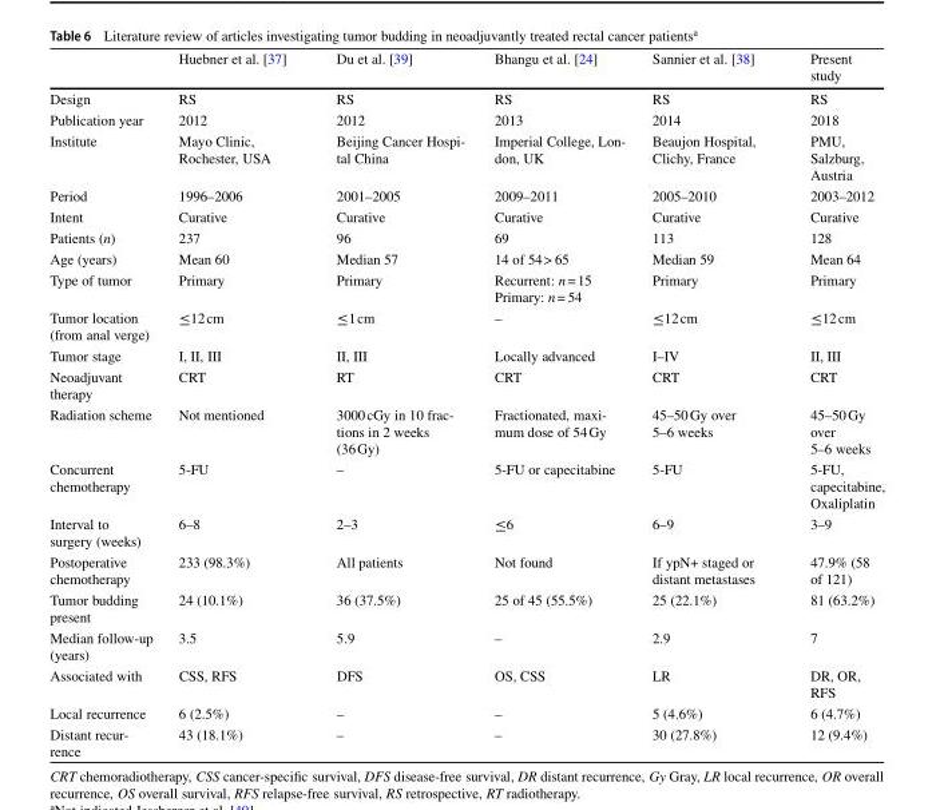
<table><thead><tr><td></td><td>Huebner et al. [37]</td><td>Du et al. [39]</td><td>Bhangu et al. [24]</td><td>Sannier et al. [38]</td><td>Present study</td></tr></thead><tbody><tr><td>Design</td><td>RS</td><td>RS</td><td>RS</td><td>RS</td><td>RS</td></tr><tr><td>Publication year</td><td>2012</td><td>2012</td><td>2013</td><td>2014</td><td>2018</td></tr><tr><td>Institute</td><td>Mayo Clinic, Rochester, USA</td><td>Beijing Cancer Hospi- tal China</td><td>Imperial College, Lon- don, UK</td><td>Beaujon Hospital, Clichy, France</td><td>PMU, Salzburg, Austria</td></tr><tr><td>Period</td><td>1996–2006</td><td>2001–2005</td><td>2009–2011</td><td>2005–2010</td><td>2003–2012</td></tr><tr><td>Intent</td><td>Curative</td><td>Curative</td><td>Curative</td><td>Curative</td><td>Curative</td></tr><tr><td>Patients (n)</td><td>237</td><td>96</td><td>69</td><td>113</td><td>128</td></tr><tr><td>Age (years)</td><td>Mean 60</td><td>Median 57</td><td>14 of 54&gt; 65</td><td>Median 59</td><td>Mean 64</td></tr><tr><td>Type of tumor</td><td>Primary</td><td>Primary</td><td>Recurrent: n=15 Primary: n= 54</td><td>Primary</td><td>Primary</td></tr><tr><td>Tumor location (from anal verge)</td><td>≤12cm</td><td>≤1cm</td><td>–</td><td>≤12cm</td><td>≤12cm</td></tr><tr><td>Tumor stage</td><td>I, II, III</td><td>II, III</td><td>Locally advanced</td><td>I–IV</td><td>II, III</td></tr><tr><td>Neoadjuvant therapy</td><td>CRT</td><td>RT</td><td>CRT</td><td>CRT</td><td>CRT</td></tr><tr><td>Radiation scheme</td><td>Not mentioned</td><td>3000cGy in 10 frac- tions in 2 weeks (36Gy)</td><td>Fractionated, maxi- mum dose of 54Gy</td><td>45–50Gy over 5–6 weeks</td><td>45–50Gy over 5–6 weeks</td></tr><tr><td>Concurrent chemotherapy</td><td>5-FU</td><td>–</td><td>5-FU or capecitabine</td><td>5-FU</td><td>5-FU, capecitabine, Oxaliplatin</td></tr><tr><td>Interval to surgery (weeks)</td><td>6–8</td><td>2–3</td><td>≤6</td><td>6–9</td><td>3–9</td></tr><tr><td>Postoperative chemotherapy</td><td>233 (98.3%)</td><td>All patients</td><td>Not found</td><td>If ypN+ staged or distant metastases</td><td>47.9% (58 of 121)</td></tr><tr><td>Tumor budding present</td><td>24 (10.1%)</td><td>36 (37.5%)</td><td>25 of 45 (55.5%)</td><td>25 (22.1%)</td><td>81 (63.2%)</td></tr><tr><td>Median follow-up (years)</td><td>3.5</td><td>5.9</td><td>–</td><td>2.9</td><td>7</td></tr><tr><td>Associated with</td><td>CSS, RFS</td><td>DFS</td><td>OS, CSS</td><td>LR</td><td>DR, OR, RFS</td></tr><tr><td>Local recurrence</td><td>6 (2.5%)</td><td>–</td><td>–</td><td>5 (4.6%)</td><td>6 (4.7%)</td></tr><tr><td>Distant recur- rence</td><td>43 (18.1%)</td><td>–</td><td>–</td><td>30 (27.8%)</td><td>12 (9.4%)</td></tr></tbody></table>